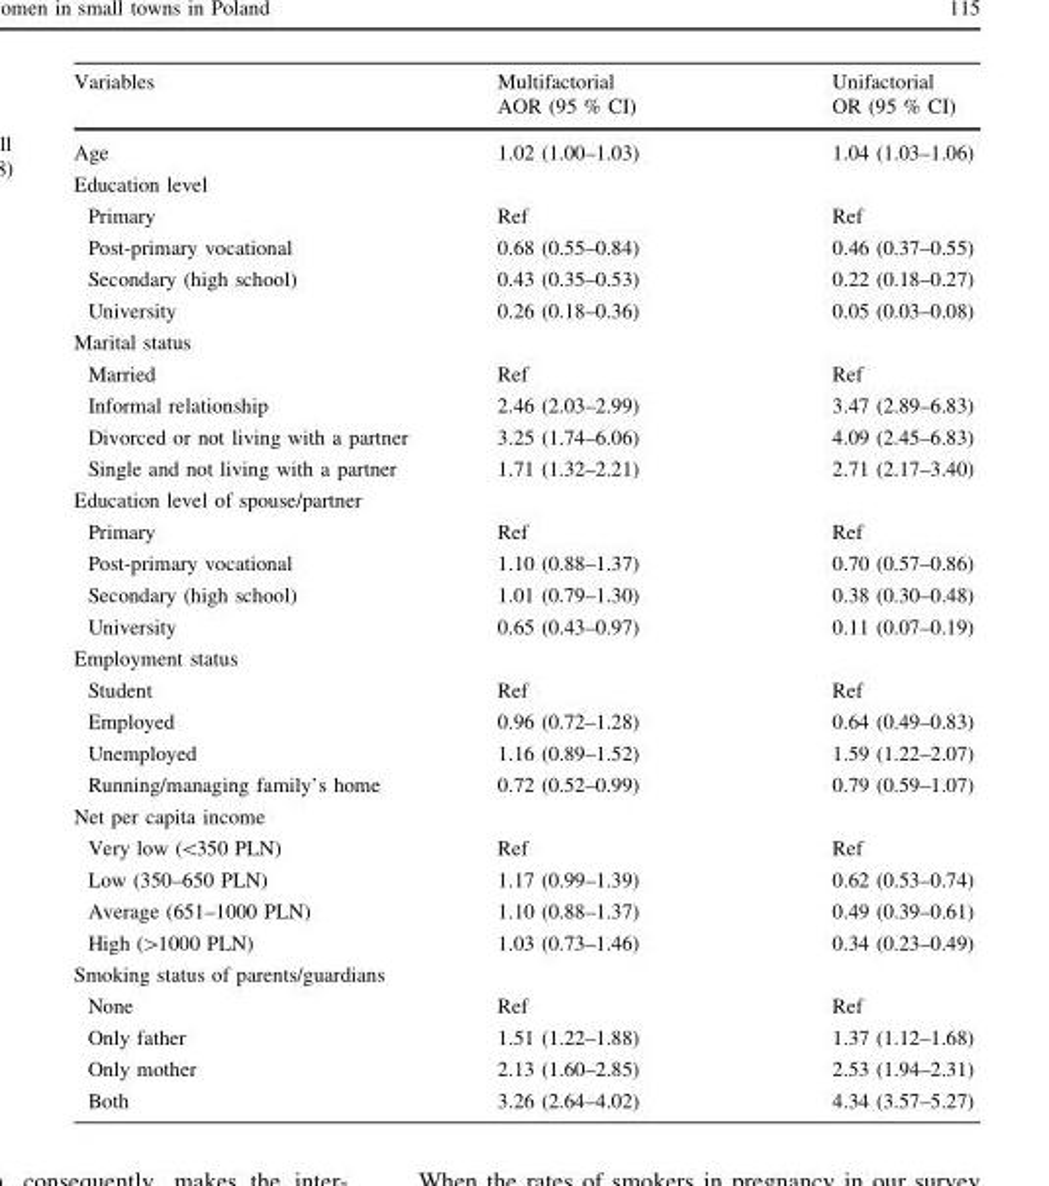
<table><thead><tr><td rowspan="2">Variables</td><td rowspan="2">Multifactorial AOR (95 % CI)</td><td rowspan="2">Unifactorial OR (95 % CI)</td></tr><tr></tr></thead><tbody><tr><td>Age</td><td>1.02 (1.00–1.03)</td><td>1.04 (1.03–1.06)</td></tr><tr><td colspan="3">Education level</td></tr><tr><td>Primary</td><td>Ref</td><td>Ref</td></tr><tr><td>Post-primary vocational</td><td>0.68 (0.55–0.84)</td><td>0.46 (0.37–0.55)</td></tr><tr><td>Secondary (high school)</td><td>0.43 (0.35–0.53)</td><td>0.22 (0.18–0.27)</td></tr><tr><td>University</td><td>0.26 (0.18–0.36)</td><td>0.05 (0.03–0.08)</td></tr><tr><td colspan="3">Marital status</td></tr><tr><td>Married</td><td>Ref</td><td>Ref</td></tr><tr><td>Informal relationship</td><td>2.46 (2.03–2.99)</td><td>3.47 (2.89–6.83)</td></tr><tr><td>Divorced or not living with a partner</td><td>3.25 (1.74–6.06)</td><td>4.09 (2.45–6.83)</td></tr><tr><td>Single and not living with a partner</td><td>1.71 (1.32–2.21)</td><td>2.71 (2.17–3.40)</td></tr><tr><td colspan="3">Education level of spouse/partner</td></tr><tr><td>Primary</td><td>Ref</td><td>Ref</td></tr><tr><td>Post-primary vocational</td><td>1.10 (0.88–1.37)</td><td>0.70 (0.57–0.86)</td></tr><tr><td>Secondary (high school)</td><td>1.01 (0.79–1.30)</td><td>0.38 (0.30–0.48)</td></tr><tr><td>University</td><td>0.65 (0.43–0.97)</td><td>0.11 (0.07–0.19)</td></tr><tr><td colspan="3">Employment status</td></tr><tr><td>Student</td><td>Ref</td><td>Ref</td></tr><tr><td>Employed</td><td>0.96 (0.72–1.28)</td><td>0.64 (0.49–0.83)</td></tr><tr><td>Unemployed</td><td>1.16 (0.89–1.52)</td><td>1.59 (1.22–2.07)</td></tr><tr><td>Running/managing family’s home</td><td>0.72 (0.52–0.99)</td><td>0.79 (0.59–1.07)</td></tr><tr><td colspan="3">Net per capita income</td></tr><tr><td>Very low (&lt;350 PLN)</td><td>Ref</td><td>Ref</td></tr><tr><td>Low (350–650 PLN)</td><td>1.17 (0.99–1.39)</td><td>0.62 (0.53–0.74)</td></tr><tr><td>Average (651–1000 PLN)</td><td>1.10 (0.88–1.37)</td><td>0.49 (0.39–0.61)</td></tr><tr><td>High (&gt;1000 PLN)</td><td>1.03 (0.73–1.46)</td><td>0.34 (0.23–0.49)</td></tr><tr><td colspan="3">Smoking status of parents/guardians</td></tr><tr><td>None</td><td>Ref</td><td>Ref</td></tr><tr><td>Only father</td><td>1.51 (1.22–1.88)</td><td>1.37 (1.12–1.68)</td></tr><tr><td>Only mother</td><td>2.13 (1.60–2.85)</td><td>2.53 (1.94–2.31)</td></tr><tr><td>Both</td><td>3.26 (2.64–4.02)</td><td>4.34 (3.57–5.27)</td></tr></tbody></table>